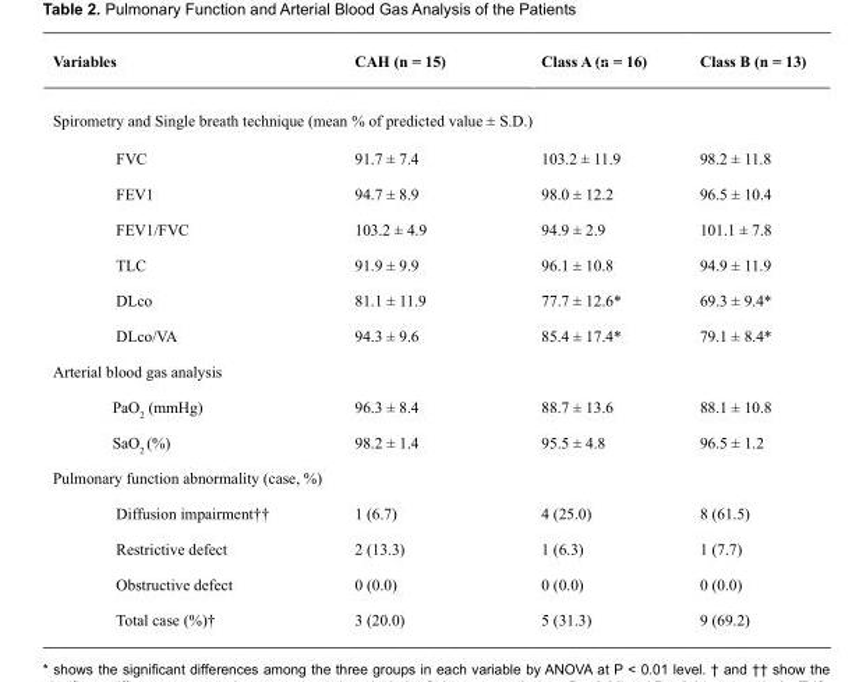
<table><thead><tr><td>Variables</td><td>CAH (n = 15)</td><td>Class A (n = 16)</td><td>Class B (n = 13)</td></tr></thead><tbody><tr><td colspan="4">Spirometry and Single breath technique (mean % of predicted value ± S.D.)</td></tr><tr><td>FVC</td><td>91.7 ± 7.4</td><td>103.2 ± 11.9</td><td>98.2 ± 11.8</td></tr><tr><td>FEV1</td><td>94.7 ± 8.9</td><td>98.0 ± 12.2</td><td>96.5 ± 10.4</td></tr><tr><td>FEV1/FVC</td><td>103.2 ± 4.9</td><td>94.9 ± 2.9</td><td>101.1 ± 7.8</td></tr><tr><td>TLC</td><td>91.9 ± 9.9</td><td>96.1 ± 10.8</td><td>94.9 ± 11.9</td></tr><tr><td>DLco</td><td>81.1 ± 11.9</td><td>77.7 ± 12.6*</td><td>69.3 ± 9.4*</td></tr><tr><td>DLco/VA</td><td>94.3 ± 9.6</td><td>85.4 ± 17.4*</td><td>79.1 ± 8.4*</td></tr><tr><td colspan="4">Arterial blood gas analysis</td></tr><tr><td>PaO<sub>2</sub> (mmHg)</td><td>96.3 ± 8.4</td><td>88.7 ± 13.6</td><td>88.1 ± 10.8</td></tr><tr><td>SaO<sub>2</sub> (%)</td><td>98.2 ± 1.4</td><td>95.5 ± 4.8</td><td>96.5 ± 1.2</td></tr><tr><td colspan="4">Pulmonary function abnormality (case, %)</td></tr><tr><td>Diffusion impairment††</td><td>1 (6.7)</td><td>4 (25.0)</td><td>8 (61.5)</td></tr><tr><td>Restrictive defect</td><td>2 (13.3)</td><td>1 (6.3)</td><td>1 (7.7)</td></tr><tr><td>Obstructive defect</td><td>0 (0.0)</td><td>0 (0.0)</td><td>0 (0.0)</td></tr><tr><td>Total case (%)†</td><td>3 (20.0)</td><td>5 (31.3)</td><td>9 (69.2)</td></tr></tbody></table>